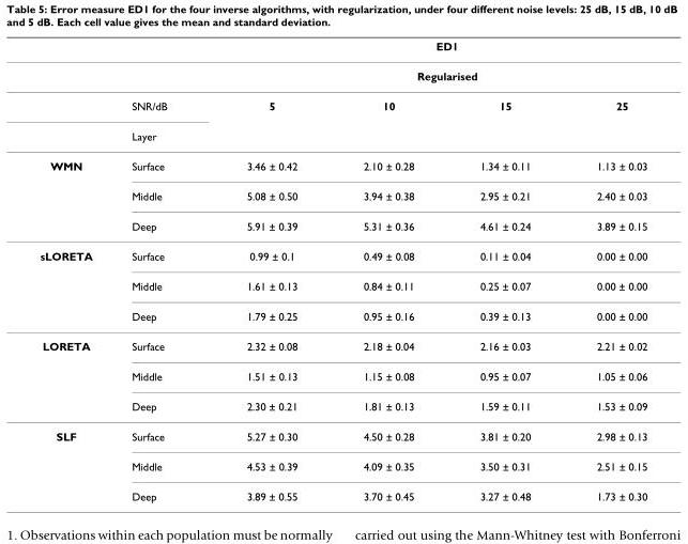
<table><thead><tr><td rowspan="3"></td><td rowspan="3">SNR/dB</td><td rowspan="2" colspan="4">ED1 Regularised</td></tr><tr></tr><tr><td>5</td><td>10</td><td>15</td><td>25</td></tr></thead><tbody><tr><td></td><td>Layer</td><td></td><td></td><td></td><td></td></tr><tr><td rowspan="3">WMN</td><td>Surface</td><td>3.46 ± 0.42</td><td>2.10 ± 0.28</td><td>1.34 ± 0.11</td><td>1.13 ± 0.03</td></tr><tr><td>Middle</td><td>5.08 ± 0.50</td><td>3.94 ± 0.38</td><td>2.95 ± 0.21</td><td>2.40 ± 0.03</td></tr><tr><td>Deep</td><td>5.91 ± 0.39</td><td>5.31 ± 0.36</td><td>4.61 ± 0.24</td><td>3.89 ± 0.15</td></tr><tr><td rowspan="3">sLORETA</td><td>Surface</td><td>0.99 ± 0.1</td><td>0.49 ± 0.08</td><td>0.11 ± 0.04</td><td>0.00 ± 0.00</td></tr><tr><td>Middle</td><td>1.61 ± 0.13</td><td>0.84 ± 0.11</td><td>0.25 ± 0.07</td><td>0.00 ± 0.00</td></tr><tr><td>Deep</td><td>1.79 ± 0.25</td><td>0.95 ± 0.16</td><td>0.39 ± 0.13</td><td>0.00 ± 0.00</td></tr><tr><td rowspan="3">LORETA</td><td>Surface</td><td>2.32 ± 0.08</td><td>2.18 ± 0.04</td><td>2.16 ± 0.03</td><td>2.21 ± 0.02</td></tr><tr><td>Middle</td><td>1.51 ± 0.13</td><td>1.15 ± 0.08</td><td>0.95 ± 0.07</td><td>1.05 ± 0.06</td></tr><tr><td>Deep</td><td>2.30 ± 0.21</td><td>1.81 ± 0.13</td><td>1.59 ± 0.11</td><td>1.53 ± 0.09</td></tr><tr><td rowspan="3">SLF</td><td>Surface</td><td>5.27 ± 0.30</td><td>4.50 ± 0.28</td><td>3.81 ± 0.20</td><td>2.98 ± 0.13</td></tr><tr><td>Middle</td><td>4.53 ± 0.39</td><td>4.09 ± 0.35</td><td>3.50 ± 0.31</td><td>2.51 ± 0.15</td></tr><tr><td>Deep</td><td>3.89 ± 0.55</td><td>3.70 ± 0.45</td><td>3.27 ± 0.48</td><td>1.73 ± 0.30</td></tr></tbody></table>